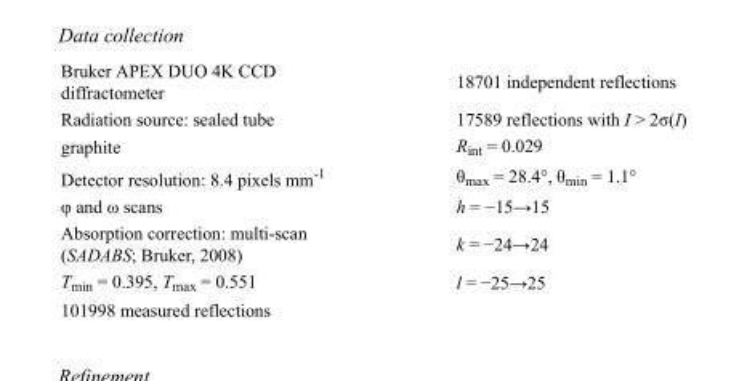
<table><tbody><tr><td>Bruker APEX DUO 4K CCD diffractometer</td><td>18701 independent reflections</td></tr><tr><td>Radiation source: sealed tube</td><td>17589 reflections with I &gt; 2σ(I)</td></tr><tr><td>graphite</td><td>R<sub>int</sub> = 0.029</td></tr><tr><td>Detector resolution: 8.4 pixels mm<sup>-1</sup></td><td>θ<sub>max</sub> = 28.4°, θ<sub>min</sub> = 1.1°</td></tr><tr><td>φ and ω scans</td><td>h = −15→15</td></tr><tr><td>Absorption correction: multi-scan (SADABS; Bruker, 2008)</td><td>k = −24→24</td></tr><tr><td>T<sub>min</sub> = 0.395, T<sub>max</sub> = 0.551</td><td>l = −25→25</td></tr><tr><td>101998 measured reflections</td><td></td></tr></tbody></table>